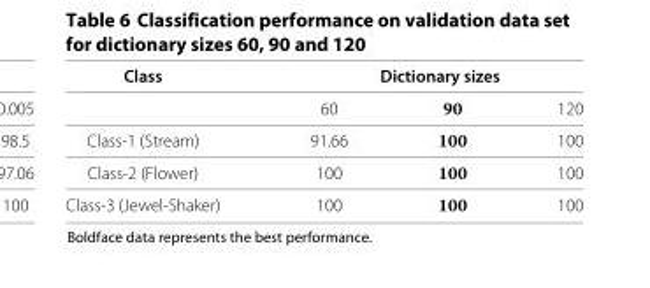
<table><thead><tr><td rowspan="2">Class</td><td colspan="3">Dictionary sizes</td></tr><tr><td>60</td><td>90</td><td>120</td></tr></thead><tbody><tr><td>Class-1 (Stream)</td><td>91.66</td><td>100</td><td>100</td></tr><tr><td>Class-2 (Flower)</td><td>100</td><td>100</td><td>100</td></tr><tr><td>Class-3 (Jewel-Shaker)</td><td>100</td><td>100</td><td>100</td></tr></tbody></table>